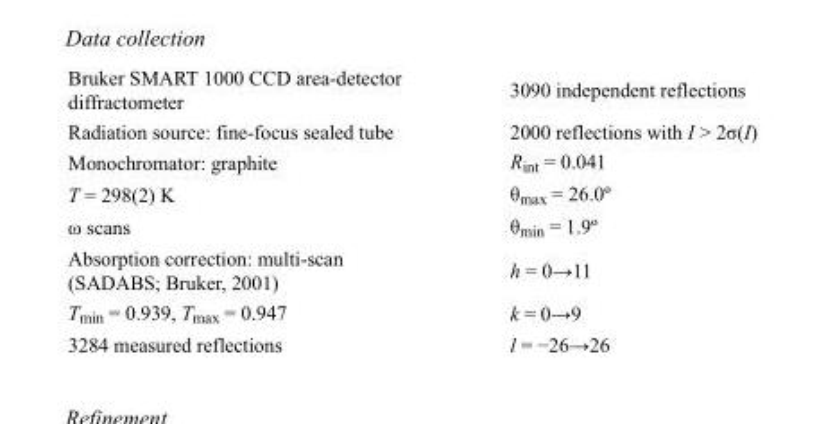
<table><tbody><tr><td>Bruker SMART 1000 CCD area-detector diffractometer</td><td>3090 independent reflections</td></tr><tr><td>Radiation source: fine-focus sealed tube</td><td>2000 reflections with I &gt; 2σ(I)</td></tr><tr><td>Monochromator: graphite</td><td>R<sub>int</sub> = 0.041</td></tr><tr><td>T = 298(2) K</td><td>θ<sub>max</sub> = 26.0º</td></tr><tr><td>ω scans</td><td>θ<sub>min</sub> = 1.9º</td></tr><tr><td>Absorption correction: multi-scan (SADABS; Bruker, 2001)</td><td>h = 0→11</td></tr><tr><td>T<sub>min</sub> = 0.939, T<sub>max</sub> = 0.947</td><td>k = 0→9</td></tr><tr><td>3284 measured reflections</td><td>l = −26→26</td></tr></tbody></table>